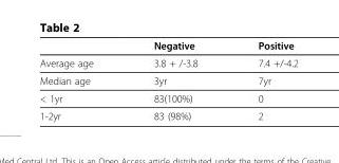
<table><thead><tr><td></td><td>Negative</td><td>Positive</td></tr></thead><tbody><tr><td>Average age</td><td>3.8 + /-3.8</td><td>7.4 +/-4.2</td></tr><tr><td>Median age</td><td>3yr</td><td>7yr</td></tr><tr><td>&lt; 1yr</td><td>83(100%)</td><td>0</td></tr><tr><td>1-2yr</td><td>83 (98%)</td><td>2</td></tr></tbody></table>